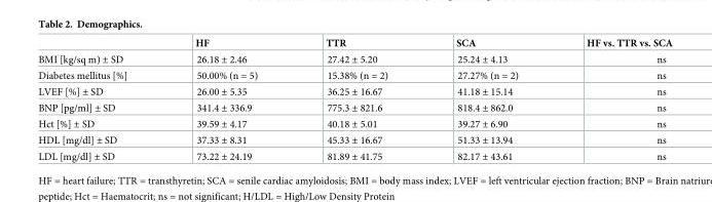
<table><thead><tr><td></td><td>HF</td><td>TTR</td><td>SCA</td><td>HF vs. TTR vs. SCA</td></tr></thead><tbody><tr><td>BMI [kg/sq m) ± SD</td><td>26.18 ± 2.46</td><td>27.42 ± 5.20</td><td>25.24 ± 4.13</td><td>ns</td></tr><tr><td>Diabetes mellitus [%]</td><td>50.00% (n = 5)</td><td>15.38% (n = 2)</td><td>27.27% (n = 2)</td><td>ns</td></tr><tr><td>LVEF [%] ± SD</td><td>26.00 ± 5.35</td><td>36.25 ± 16.67</td><td>41.18 ± 15.14</td><td>ns</td></tr><tr><td>BNP [pg/ml] ± SD</td><td>341.4 ± 336.9</td><td>775.3 ± 821.6</td><td>818.4 ± 862.0</td><td>ns</td></tr><tr><td>Hct [%] ± SD</td><td>39.59 ± 4.17</td><td>40.18 ± 5.01</td><td>39.27 ± 6.90</td><td>ns</td></tr><tr><td>HDL [mg/dl] ± SD</td><td>37.33 ± 8.31</td><td>45.33 ± 16.67</td><td>51.33 ± 13.94</td><td>ns</td></tr><tr><td>LDL [mg/dl] ± SD</td><td>73.22 ± 24.19</td><td>81.89 ± 41.75</td><td>82.17 ± 43.61</td><td>ns</td></tr></tbody></table>